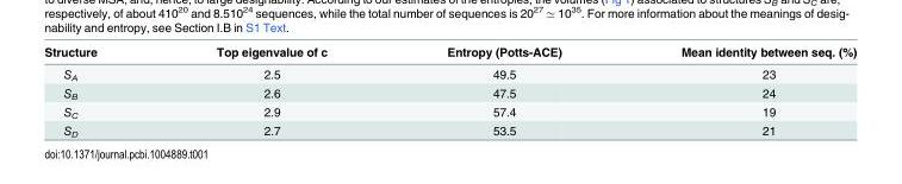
<table><thead><tr><td>Structure</td><td>Top eigenvalue of c</td><td>Entropy (Potts-ACE)</td><td>Mean identity between seq. (%)</td></tr></thead><tbody><tr><td>S<sub>A</sub></td><td>2.5</td><td>49.5</td><td>23</td></tr><tr><td>S<sub>B</sub></td><td>2.6</td><td>47.5</td><td>24</td></tr><tr><td>S<sub>C</sub></td><td>2.9</td><td>57.4</td><td>19</td></tr><tr><td>S<sub>D</sub></td><td>2.7</td><td>53.5</td><td>21</td></tr></tbody></table>